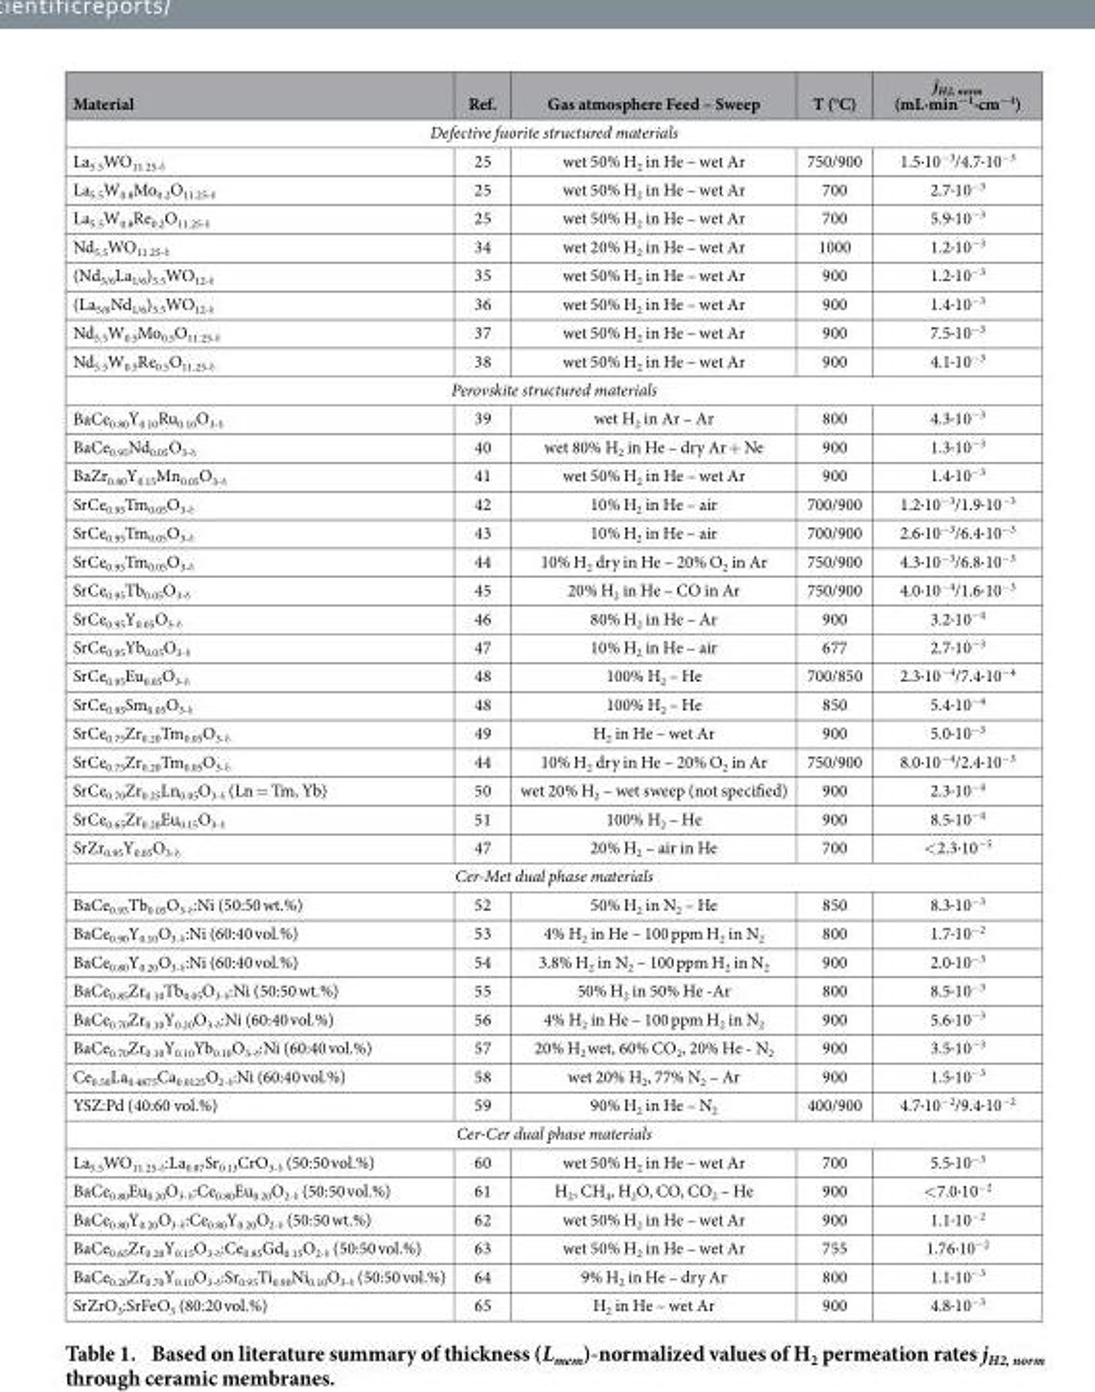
<table><thead><tr><td>Material</td><td>Ref.</td><td>Gas atmosphere Feed – Sweep</td><td>T (°C)</td><td>j<sub>H2, norm</sub> (mL·min<sup>−1</sup>·cm<sup>−1</sup>)</td></tr></thead><tbody><tr><td colspan="5">Defective fuorite structured materials</td></tr><tr><td>La<sub>5.5</sub>WO<sub>11.25-δ</sub></td><td>25</td><td>wet 50% H<sub>2</sub> in He – wet Ar</td><td>750/900</td><td>1.5·10<sup>−3</sup>/4.7·10<sup>−3</sup></td></tr><tr><td>La<sub>5.5</sub>W<sub>0.8</sub>Mo<sub>0.2</sub>O<sub>11.25-δ</sub></td><td>25</td><td>wet 50% H<sub>2</sub> in He – wet Ar</td><td>700</td><td>2.7·10<sup>−3</sup></td></tr><tr><td>La<sub>5.5</sub>W<sub>0.8</sub>Re<sub>0.2</sub>O<sub>11.25-δ</sub></td><td>25</td><td>wet 50% H<sub>2</sub> in He – wet Ar</td><td>700</td><td>5.9·10<sup>−3</sup></td></tr><tr><td>Nd<sub>5.5</sub>WO<sub>11.25-δ</sub></td><td>34</td><td>wet 20% H<sub>2</sub> in He – wet Ar</td><td>1000</td><td>1.2·10<sup>−3</sup></td></tr><tr><td>(Nd<sub>5/6</sub>La<sub>1/6</sub>)<sub>5.5</sub>WO<sub>12-δ</sub></td><td>35</td><td>wet 50% H<sub>2</sub> in He – wet Ar</td><td>900</td><td>1.2·10<sup>−3</sup></td></tr><tr><td>(La<sub>5/6</sub>Nd<sub>1/6</sub>)<sub>5.5</sub>WO<sub>12-δ</sub></td><td>36</td><td>wet 50% H<sub>2</sub> in He – wet Ar</td><td>900</td><td>1.4·10<sup>−3</sup></td></tr><tr><td>Nd<sub>5.5</sub>W<sub>0.5</sub>Mo<sub>0.5</sub>O<sub>11.25-δ</sub></td><td>37</td><td>wet 50% H<sub>2</sub> in He – wet Ar</td><td>900</td><td>7.5·10<sup>−3</sup></td></tr><tr><td>Nd<sub>5.5</sub>W<sub>0.5</sub>Re<sub>0.5</sub>O<sub>11.25-δ</sub></td><td>38</td><td>wet 50% H<sub>2</sub> in He – wet Ar</td><td>900</td><td>4.1·10<sup>−3</sup></td></tr><tr><td colspan="5">Perovskite structured materials</td></tr><tr><td>BaCe<sub>0.80</sub>Y<sub>0.10</sub>Ru<sub>0.10</sub>O<sub>3-δ</sub></td><td>39</td><td>wet H<sub>2</sub> in Ar – Ar</td><td>800</td><td>4.3·10<sup>−3</sup></td></tr><tr><td>BaCe<sub>0.95</sub>Nd<sub>0.05</sub>O<sub>3-δ</sub></td><td>40</td><td>wet 80% H<sub>2</sub> in He – dry Ar + Ne</td><td>900</td><td>1.3·10<sup>−3</sup></td></tr><tr><td>BaZr<sub>0.80</sub>Y<sub>0.15</sub>Mn<sub>0.05</sub>O<sub>3-δ</sub></td><td>41</td><td>wet 50% H<sub>2</sub> in He – wet Ar</td><td>900</td><td>1.4·10<sup>−3</sup></td></tr><tr><td>SrCe<sub>0.95</sub>Tm<sub>0.05</sub>O<sub>3-δ</sub></td><td>42</td><td>10% H<sub>2</sub> in He – air</td><td>700/900</td><td>1.2·10<sup>−3</sup>/1.9·10<sup>−3</sup></td></tr><tr><td>SrCe<sub>0.95</sub>Tm<sub>0.05</sub>O<sub>3-δ</sub></td><td>43</td><td>10% H<sub>2</sub> in He – air</td><td>700/900</td><td>2.6·10<sup>−3</sup>/6.4·10<sup>−3</sup></td></tr><tr><td>SrCe<sub>0.95</sub>Tm<sub>0.05</sub>O<sub>3-δ</sub></td><td>44</td><td>10% H<sub>2</sub> dry in He – 20% O<sub>2</sub> in Ar</td><td>750/900</td><td>4.3·10<sup>−3</sup>/6.8·10<sup>−3</sup></td></tr><tr><td>SrCe<sub>0.95</sub>Tb<sub>0.05</sub>O<sub>3-δ</sub></td><td>45</td><td>20% H<sub>2</sub> in He – CO in Ar</td><td>750/900</td><td>4.0·10<sup>−4</sup>/1.6·10<sup>−3</sup></td></tr><tr><td>SrCe<sub>0.95</sub>Y<sub>0.05</sub>O<sub>3-δ</sub></td><td>46</td><td>80% H<sub>2</sub> in He – Ar</td><td>900</td><td>3.2·10<sup>−4</sup></td></tr><tr><td>SrCe<sub>0.95</sub>Yb<sub>0.05</sub>O<sub>3-δ</sub></td><td>47</td><td>10% H<sub>2</sub> in He – air</td><td>677</td><td>2.7·10<sup>−3</sup></td></tr><tr><td>SrCe<sub>0.95</sub>Eu<sub>0.05</sub>O<sub>3-δ</sub></td><td>48</td><td>100% H<sub>2</sub> – He</td><td>700/850</td><td>2.3·10<sup>−4</sup>/7.4·10<sup>−4</sup></td></tr><tr><td>SrCe<sub>0.95</sub>Sm<sub>0.05</sub>O<sub>3-δ</sub></td><td>48</td><td>100% H<sub>2</sub> – He</td><td>850</td><td>5.4·10<sup>−4</sup></td></tr><tr><td>SrCe<sub>0.75</sub>Zr<sub>0.20</sub>Tm<sub>0.05</sub>O<sub>3-δ</sub></td><td>49</td><td>H<sub>2</sub> in He – wet Ar</td><td>900</td><td>5.0·10<sup>−3</sup></td></tr><tr><td>SrCe<sub>0.75</sub>Zr<sub>0.20</sub>Tm<sub>0.05</sub>O<sub>3-δ</sub></td><td>44</td><td>10% H<sub>2</sub> dry in He – 20% O<sub>2</sub> in Ar</td><td>750/900</td><td>8.0·10<sup>−4</sup>/2.4·10<sup>−3</sup></td></tr><tr><td>SrCe<sub>0.70</sub>Zr<sub>0.25</sub>Ln<sub>0.05</sub>O<sub>3-δ</sub> (Ln = Tm, Yb)</td><td>50</td><td>wet 20% H<sub>2</sub> – wet sweep (not specified)</td><td>900</td><td>2.3·10<sup>−4</sup></td></tr><tr><td>SrCe<sub>0.65</sub>Zr<sub>0.20</sub>Eu<sub>0.15</sub>O<sub>3-δ</sub></td><td>51</td><td>100% H<sub>2</sub> – He</td><td>900</td><td>8.5·10<sup>−4</sup></td></tr><tr><td>SrZr<sub>0.95</sub>Y<sub>0.05</sub>O<sub>3-δ</sub></td><td>47</td><td>20% H<sub>2</sub> – air in He</td><td>700</td><td>&lt; 2.3·10<sup>−5</sup></td></tr><tr><td colspan="5">Cer-Met dual phase materials</td></tr><tr><td>BaCe<sub>0.95</sub>Tb<sub>0.05</sub>O<sub>3-δ</sub>:Ni (50:50 wt.%)</td><td>52</td><td>50% H<sub>2</sub> in N<sub>2</sub> – He</td><td>850</td><td>8.3·10<sup>−3</sup></td></tr><tr><td>BaCe<sub>0.90</sub>Y<sub>0.10</sub>O<sub>3-δ</sub>:Ni (60:40 vol.%)</td><td>53</td><td>4% H<sub>2</sub> in He – 100 ppm H<sub>2</sub> in N<sub>2</sub></td><td>800</td><td>1.7·10<sup>−2</sup></td></tr><tr><td>BaCe<sub>0.80</sub>Y<sub>0.20</sub>O<sub>3-δ</sub>:Ni (60:40 vol.%)</td><td>54</td><td>3.8% H<sub>2</sub> in N<sub>2</sub> – 100 ppm H<sub>2</sub> in N<sub>2</sub></td><td>900</td><td>2.0·10<sup>−3</sup></td></tr><tr><td>BaCe<sub>0.85</sub>Zr<sub>0.10</sub>Tb<sub>0.05</sub>O<sub>3-δ</sub>:Ni (50:50 wt.%)</td><td>55</td><td>50% H<sub>2</sub> in 50% He -Ar</td><td>800</td><td>8.5·10<sup>−3</sup></td></tr><tr><td>BaCe<sub>0.70</sub>Zr<sub>0.10</sub>Y<sub>0.20</sub>O<sub>3-δ</sub>:Ni (60:40 vol.%)</td><td>56</td><td>4% H<sub>2</sub> in He – 100 ppm H<sub>2</sub> in N<sub>2</sub></td><td>900</td><td>5.6·10<sup>−3</sup></td></tr><tr><td>BaCe<sub>0.70</sub>Zr<sub>0.10</sub>Y<sub>0.10</sub>Yb<sub>0.10</sub>O<sub>3-δ</sub>:Ni (60:40 vol.%)</td><td>57</td><td>20% H<sub>2</sub> wet, 60% CO<sub>2</sub>, 20% He - N<sub>2</sub></td><td>900</td><td>3.5·10<sup>−3</sup></td></tr><tr><td>Ce<sub>0.50</sub>La<sub>0.4875</sub>Ca<sub>0.0125</sub>O<sub>2-δ</sub>:Ni (60:40 vol.%)</td><td>58</td><td>wet 20% H<sub>2</sub>, 77% N<sub>2</sub> – Ar</td><td>900</td><td>1.5·10<sup>−3</sup></td></tr><tr><td>YSZ:Pd (40:60 vol.%)</td><td>59</td><td>90% H<sub>2</sub> in He – N<sub>2</sub></td><td>400/900</td><td>4.7·10<sup>−2</sup>/9.4·10<sup>−2</sup></td></tr><tr><td colspan="5">Cer-Cer dual phase materials</td></tr><tr><td>La<sub>5.5</sub>WO<sub>11.25-δ</sub>:La<sub>0.87</sub>Sr<sub>0.13</sub>CrO<sub>3-δ</sub> (50:50 vol.%)</td><td>60</td><td>wet 50% H<sub>2</sub> in He – wet Ar</td><td>700</td><td>5.5·10<sup>−3</sup></td></tr><tr><td>BaCe<sub>0.80</sub>Eu<sub>0.20</sub>O<sub>3-δ</sub>:Ce<sub>0.80</sub>Eu<sub>0.20</sub>O<sub>2-δ</sub> (50:50 vol.%)</td><td>61</td><td>H<sub>2</sub>, CH<sub>4</sub>, H<sub>2</sub>O, CO, CO<sub>2</sub> – He</td><td>900</td><td>&lt; 7.0·10<sup>−2</sup></td></tr><tr><td>BaCe<sub>0.80</sub>Y<sub>0.20</sub>O<sub>3-δ</sub>:Ce<sub>0.80</sub>Y<sub>0.20</sub>O<sub>2-δ</sub> (50:50 wt.%)</td><td>62</td><td>wet 50% H<sub>2</sub> in He – wet Ar</td><td>900</td><td>1.1·10<sup>−2</sup></td></tr><tr><td>BaCe<sub>0.65</sub>Zr<sub>0.20</sub>Y<sub>0.15</sub>O<sub>3-δ</sub>:Ce<sub>0.85</sub>Gd<sub>0.15</sub>O<sub>2-δ</sub> (50:50 vol.%)</td><td>63</td><td>wet 50% H<sub>2</sub> in He – wet Ar</td><td>755</td><td>1.76·10<sup>−2</sup></td></tr><tr><td>BaCe<sub>0.20</sub>Zr<sub>0.70</sub>Y<sub>0.10</sub>O<sub>3-δ</sub>:Sr<sub>0.95</sub>Ti<sub>0.90</sub>Ni<sub>0.10</sub>O<sub>3-δ</sub> (50:50 vol.%)</td><td>64</td><td>9% H<sub>2</sub> in He – dry Ar</td><td>800</td><td>1.1·10<sup>−3</sup></td></tr><tr><td>SrZrO<sub>3</sub>:SrFeO<sub>3</sub> (80:20 vol.%)</td><td>65</td><td>H<sub>2</sub> in He – wet Ar</td><td>900</td><td>4.8·10<sup>−3</sup></td></tr></tbody></table>